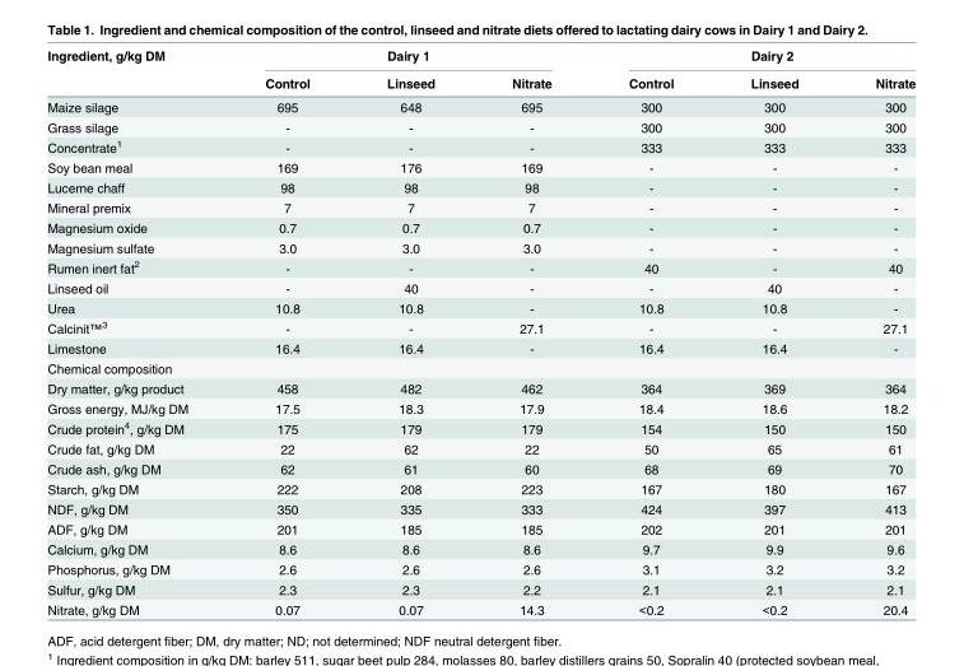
<table><thead><tr><td rowspan="2">Ingredient, g/kg DM</td><td colspan="3">Dairy 1</td><td colspan="3">Dairy 2</td></tr><tr><td>Control</td><td>Linseed</td><td>Nitrate</td><td>Control</td><td>Linseed</td><td>Nitrate</td></tr></thead><tbody><tr><td>Maize silage</td><td>695</td><td>648</td><td>695</td><td>300</td><td>300</td><td>300</td></tr><tr><td>Grass silage</td><td>-</td><td>-</td><td>-</td><td>300</td><td>300</td><td>300</td></tr><tr><td>Concentrate<sup>1</sup></td><td>-</td><td>-</td><td>-</td><td>333</td><td>333</td><td>333</td></tr><tr><td>Soy bean meal</td><td>169</td><td>176</td><td>169</td><td>-</td><td>-</td><td>-</td></tr><tr><td>Lucerne chaff</td><td>98</td><td>98</td><td>98</td><td>-</td><td>-</td><td>-</td></tr><tr><td>Mineral premix</td><td>7</td><td>7</td><td>7</td><td>-</td><td>-</td><td>-</td></tr><tr><td>Magnesium oxide</td><td>0.7</td><td>0.7</td><td>0.7</td><td>-</td><td>-</td><td>-</td></tr><tr><td>Magnesium sulfate</td><td>3.0</td><td>3.0</td><td>3.0</td><td>-</td><td>-</td><td>-</td></tr><tr><td>Rumen inert fat<sup>2</sup></td><td>-</td><td>-</td><td>-</td><td>40</td><td>-</td><td>40</td></tr><tr><td>Linseed oil</td><td>-</td><td>40</td><td>-</td><td>-</td><td>40</td><td>-</td></tr><tr><td>Urea</td><td>10.8</td><td>10.8</td><td>-</td><td>10.8</td><td>10.8</td><td>-</td></tr><tr><td>Calcinit™<sup>3</sup></td><td>-</td><td>-</td><td>27.1</td><td>-</td><td>-</td><td>27.1</td></tr><tr><td>Limestone</td><td>16.4</td><td>16.4</td><td>-</td><td>16.4</td><td>16.4</td><td>-</td></tr><tr><td colspan="7">Chemical composition</td></tr><tr><td>Dry matter, g/kg product</td><td>458</td><td>482</td><td>462</td><td>364</td><td>369</td><td>364</td></tr><tr><td>Gross energy, MJ/kg DM</td><td>17.5</td><td>18.3</td><td>17.9</td><td>18.4</td><td>18.6</td><td>18.2</td></tr><tr><td>Crude protein<sup>4</sup>, g/kg DM</td><td>175</td><td>179</td><td>179</td><td>154</td><td>150</td><td>150</td></tr><tr><td>Crude fat, g/kg DM</td><td>22</td><td>62</td><td>22</td><td>50</td><td>65</td><td>61</td></tr><tr><td>Crude ash, g/kg DM</td><td>62</td><td>61</td><td>60</td><td>68</td><td>69</td><td>70</td></tr><tr><td>Starch, g/kg DM</td><td>222</td><td>208</td><td>223</td><td>167</td><td>180</td><td>167</td></tr><tr><td>NDF, g/kg DM</td><td>350</td><td>335</td><td>333</td><td>424</td><td>397</td><td>413</td></tr><tr><td>ADF, g/kg DM</td><td>201</td><td>185</td><td>185</td><td>202</td><td>201</td><td>201</td></tr><tr><td>Calcium, g/kg DM</td><td>8.6</td><td>8.6</td><td>8.6</td><td>9.7</td><td>9.9</td><td>9.6</td></tr><tr><td>Phosphorus, g/kg DM</td><td>2.6</td><td>2.6</td><td>2.6</td><td>3.1</td><td>3.2</td><td>3.2</td></tr><tr><td>Sulfur, g/kg DM</td><td>2.3</td><td>2.3</td><td>2.2</td><td>2.1</td><td>2.1</td><td>2.1</td></tr><tr><td>Nitrate, g/kg DM</td><td>0.07</td><td>0.07</td><td>14.3</td><td>&lt;0.2</td><td>&lt;0.2</td><td>20.4</td></tr></tbody></table>